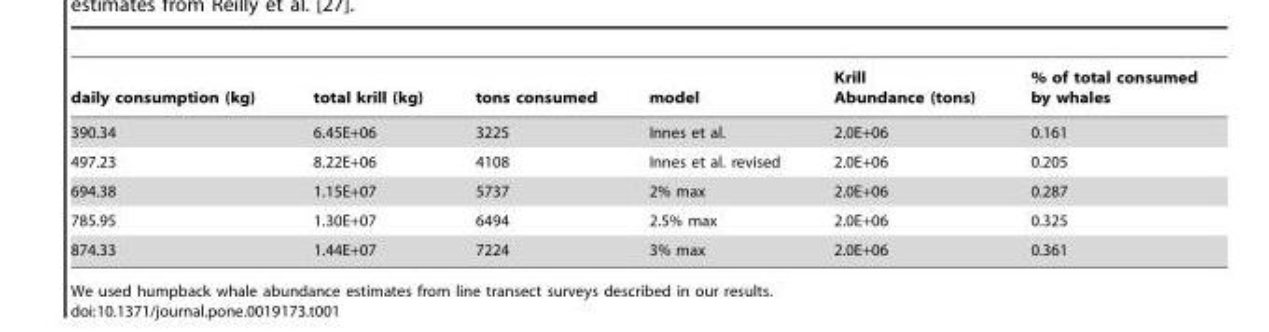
<table><thead><tr><td>daily consumption (kg)</td><td>total krill (kg)</td><td>tons consumed</td><td>model</td><td>Krill Abundance (tons)</td><td>% of total consumed by whales</td></tr></thead><tbody><tr><td>390.34</td><td>6.45E+06</td><td>3225</td><td>Innes et al.</td><td>2.0E+06</td><td>0.161</td></tr><tr><td>497.23</td><td>8.22E+06</td><td>4108</td><td>Innes et al. revised</td><td>2.0E+06</td><td>0.205</td></tr><tr><td>694.38</td><td>1.15E+07</td><td>5737</td><td>2% max</td><td>2.0E+06</td><td>0.287</td></tr><tr><td>785.95</td><td>1.30E+07</td><td>6494</td><td>2.5% max</td><td>2.0E+06</td><td>0.325</td></tr><tr><td>874.33</td><td>1.44E+07</td><td>7224</td><td>3% max</td><td>2.0E+06</td><td>0.361</td></tr></tbody></table>